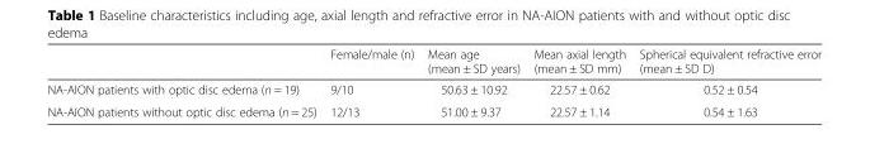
<table><thead><tr><td></td><td>Female/male (n)</td><td>Mean age (mean ± SD years)</td><td>Mean axial length (mean ± SD mm)</td><td>Spherical equivalent refractive error (mean ± SD D)</td></tr></thead><tbody><tr><td>NA-AION patients with optic disc edema (n = 19)</td><td>9/10</td><td>50.63 ± 10.92</td><td>22.57 ± 0.62</td><td>0.52 ± 0.54</td></tr><tr><td>NA-AION patients without optic disc edema (n = 25)</td><td>12/13</td><td>51.00 ± 9.37</td><td>22.57 ± 1.14</td><td>0.54 ± 1.63</td></tr></tbody></table>